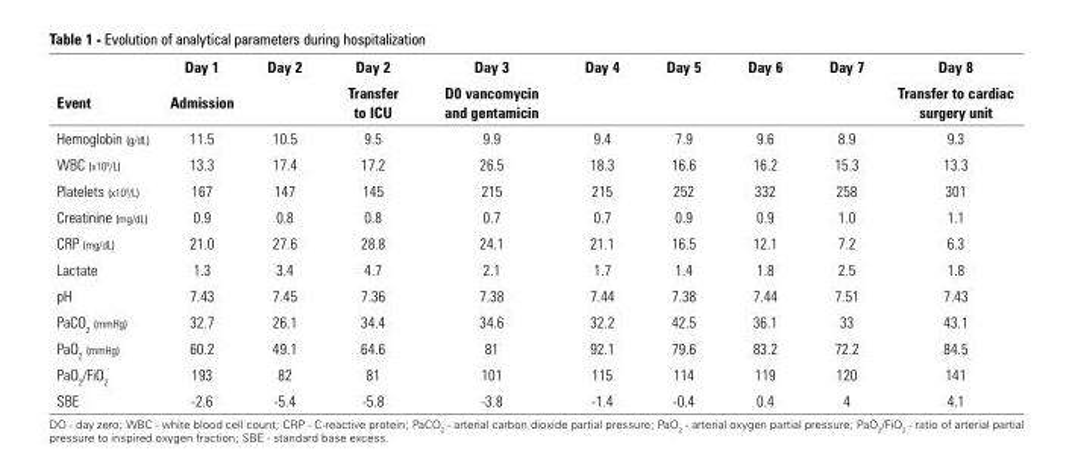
<table><thead><tr><td rowspan="2">Event</td><td rowspan="2">Day 1 Admission</td><td rowspan="2">Day 2</td><td rowspan="2">Day 2 Transfer to ICU</td><td rowspan="2">Day 3 D0 vancomycin and gentamicin</td><td rowspan="2">Day 4</td><td rowspan="2">Day 5</td><td rowspan="2">Day 6</td><td rowspan="2">Day 7</td><td rowspan="2">Day 8 Transfer to cardiac surgery unit</td></tr><tr></tr></thead><tbody><tr><td>Hemoglobin (g/dL)</td><td>11.5</td><td>10.5</td><td>9.5</td><td>9.9</td><td>9.4</td><td>7.9</td><td>9.6</td><td>8.9</td><td>9.3</td></tr><tr><td>WBC (x10<sup>9</sup>/L)</td><td>13.3</td><td>17.4</td><td>17.2</td><td>26.5</td><td>18.3</td><td>16.6</td><td>16.2</td><td>15.3</td><td>13.3</td></tr><tr><td>Platelets (x10<sup>9</sup>/L)</td><td>167</td><td>147</td><td>145</td><td>215</td><td>215</td><td>252</td><td>332</td><td>258</td><td>301</td></tr><tr><td>Creatinine (mg/dL)</td><td>0.9</td><td>0.8</td><td>0.8</td><td>0.7</td><td>0.7</td><td>0.9</td><td>0.9</td><td>1.0</td><td>1.1</td></tr><tr><td>CRP (mg/dL)</td><td>21.0</td><td>27.6</td><td>28.8</td><td>24.1</td><td>21.1</td><td>16.5</td><td>12.1</td><td>7.2</td><td>6.3</td></tr><tr><td>Lactate</td><td>1.3</td><td>3.4</td><td>4.7</td><td>2.1</td><td>1.7</td><td>1.4</td><td>1.8</td><td>2.5</td><td>1.8</td></tr><tr><td>pH</td><td>7.43</td><td>7.45</td><td>7.36</td><td>7.38</td><td>7.44</td><td>7.38</td><td>7.44</td><td>7.51</td><td>7.43</td></tr><tr><td>PaCO<sub>2</sub> (mmHg)</td><td>32.7</td><td>26.1</td><td>34.4</td><td>34.6</td><td>32.2</td><td>42.5</td><td>36.1</td><td>33</td><td>43.1</td></tr><tr><td>PaO<sub>2</sub> (mmHg)</td><td>60.2</td><td>49.1</td><td>64.6</td><td>81</td><td>92.1</td><td>79.6</td><td>83.2</td><td>72.2</td><td>84.5</td></tr><tr><td>PaO<sub>2</sub>/FiO<sub>2</sub></td><td>193</td><td>82</td><td>81</td><td>101</td><td>115</td><td>114</td><td>119</td><td>120</td><td>141</td></tr><tr><td>SBE</td><td>-2.6</td><td>-5.4</td><td>-5.8</td><td>-3.8</td><td>-1.4</td><td>-0.4</td><td>0.4</td><td>4</td><td>4.1</td></tr></tbody></table>